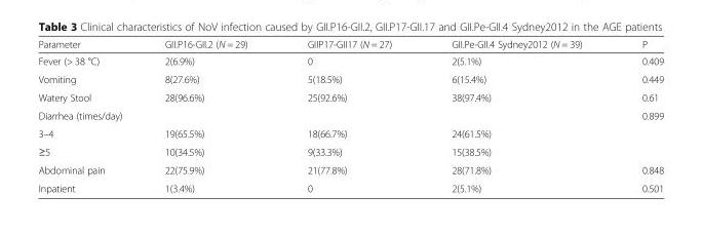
<table><thead><tr><td>Parameter</td><td>GII.P16-GII.2 (N = 29)</td><td>GIIP17-GII17 (N = 27)</td><td>GII.Pe-GII.4 Sydney2012 (N = 39)</td><td>P</td></tr></thead><tbody><tr><td>Fever (&gt; 38 °C)</td><td>2(6.9%)</td><td>0</td><td>2(5.1%)</td><td>0.409</td></tr><tr><td>Vomiting</td><td>8(27.6%)</td><td>5(18.5%)</td><td>6(15.4%)</td><td>0.449</td></tr><tr><td>Watery Stool</td><td>28(96.6%)</td><td>25(92.6%)</td><td>38(97.4%)</td><td>0.61</td></tr><tr><td colspan="4">Diarrhea (times/day)</td><td>0.899</td></tr><tr><td>3–4</td><td>19(65.5%)</td><td>18(66.7%)</td><td>24(61.5%)</td><td></td></tr><tr><td>≥5</td><td>10(34.5%)</td><td>9(33.3%)</td><td>15(38.5%)</td><td></td></tr><tr><td>Abdominal pain</td><td>22(75.9%)</td><td>21(77.8%)</td><td>28(71.8%)</td><td>0.848</td></tr><tr><td>Inpatient</td><td>1(3.4%)</td><td>0</td><td>2(5.1%)</td><td>0.501</td></tr></tbody></table>